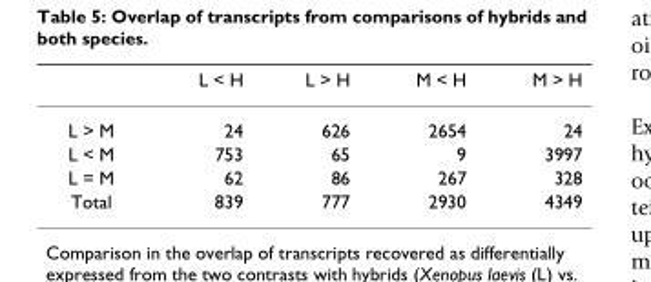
<table><thead><tr><td></td><td>L &lt; H</td><td>L &gt; H</td><td>M &lt; H</td><td>M &gt; H</td></tr></thead><tbody><tr><td>L &gt; M</td><td>24</td><td>626</td><td>2654</td><td>24</td></tr><tr><td>L &lt; M</td><td>753</td><td>65</td><td>9</td><td>3997</td></tr><tr><td>L = M</td><td>62</td><td>86</td><td>267</td><td>328</td></tr><tr><td>Total</td><td>839</td><td>777</td><td>2930</td><td>4349</td></tr></tbody></table>